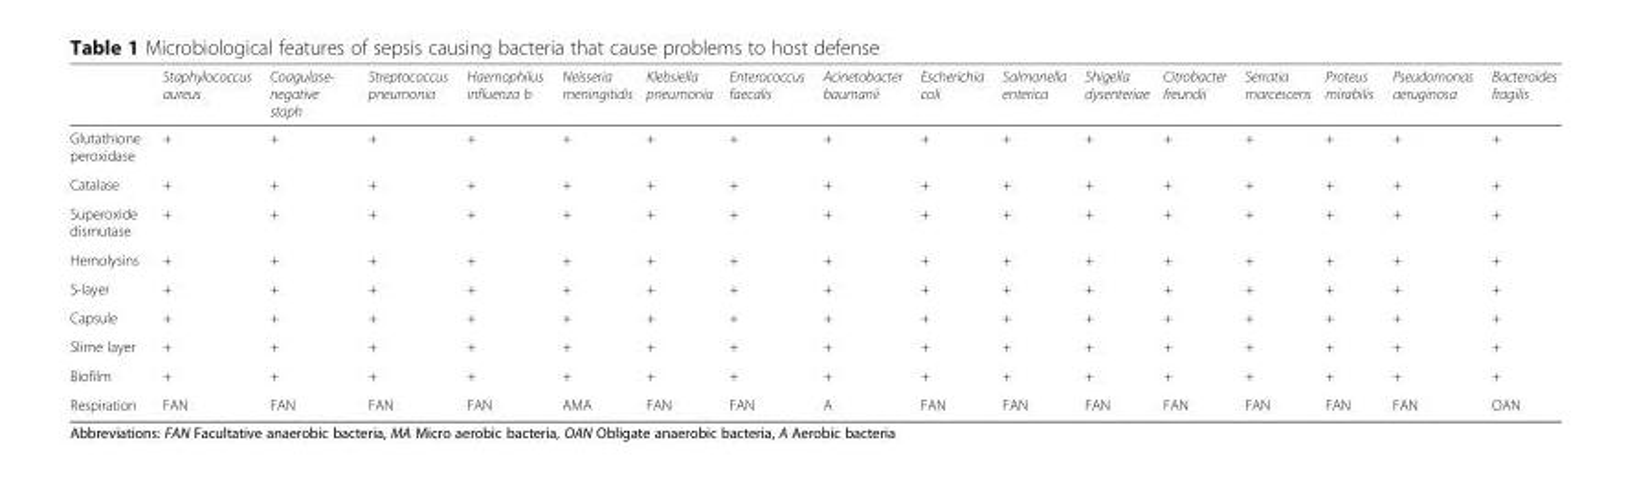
<table><thead><tr><td></td><td>Staphylococcus aureus</td><td>Coagulase- negative staph</td><td>Streptococcus pneumonia</td><td>Haemophilus influenza b</td><td>Neisseria meningitidis</td><td>Klebsiella pneumonia</td><td>Enterococcus faecalis</td><td>Acinetobacter baumanii</td><td>Escherichia coli</td><td>Salmonella enterica</td><td>Shigella dysenteriae</td><td>Citrobacter freundii</td><td>Serratia marcescens</td><td>Proteus mirabilis</td><td>Pseudomonas aeruginosa</td><td>Bacteroides fragilis</td></tr></thead><tbody><tr><td>Glutathione peroxidase</td><td>+</td><td>+</td><td>+</td><td>+</td><td>+</td><td>+</td><td>+</td><td>+</td><td>+</td><td>+</td><td>+</td><td>+</td><td>+</td><td>+</td><td>+</td><td>+</td></tr><tr><td>Catalase</td><td>+</td><td>+</td><td>+</td><td>+</td><td>+</td><td>+</td><td>+</td><td>+</td><td>+</td><td>+</td><td>+</td><td>+</td><td>+</td><td>+</td><td>+</td><td>+</td></tr><tr><td>Superoxide dismutase</td><td>+</td><td>+</td><td>+</td><td>+</td><td>+</td><td>+</td><td>+</td><td>+</td><td>+</td><td>+</td><td>+</td><td>+</td><td>+</td><td>+</td><td>+</td><td>+</td></tr><tr><td>Hemolysins</td><td>+</td><td>+</td><td>+</td><td>+</td><td>+</td><td>+</td><td>+</td><td>+</td><td>+</td><td>+</td><td>+</td><td>+</td><td>+</td><td>+</td><td>+</td><td>+</td></tr><tr><td>S-layer</td><td>+</td><td>+</td><td>+</td><td>+</td><td>+</td><td>+</td><td>+</td><td>+</td><td>+</td><td>+</td><td>+</td><td>+</td><td>+</td><td>+</td><td>+</td><td>+</td></tr><tr><td>Capsule</td><td>+</td><td>+</td><td>+</td><td>+</td><td>+</td><td>+</td><td>+</td><td>+</td><td>+</td><td>+</td><td>+</td><td>+</td><td>+</td><td>+</td><td>+</td><td>+</td></tr><tr><td>Slime layer</td><td>+</td><td>+</td><td>+</td><td>+</td><td>+</td><td>+</td><td>+</td><td>+</td><td>+</td><td>+</td><td>+</td><td>+</td><td>+</td><td>+</td><td>+</td><td>+</td></tr><tr><td>Biofilm</td><td>+</td><td>+</td><td>+</td><td>+</td><td>+</td><td>+</td><td>+</td><td>+</td><td>+</td><td>+</td><td>+</td><td>+</td><td>+</td><td>+</td><td>+</td><td>+</td></tr><tr><td>Respiration</td><td>FAN</td><td>FAN</td><td>FAN</td><td>FAN</td><td>AMA</td><td>FAN</td><td>FAN</td><td>A</td><td>FAN</td><td>FAN</td><td>FAN</td><td>FAN</td><td>FAN</td><td>FAN</td><td>FAN</td><td>OAN</td></tr></tbody></table>